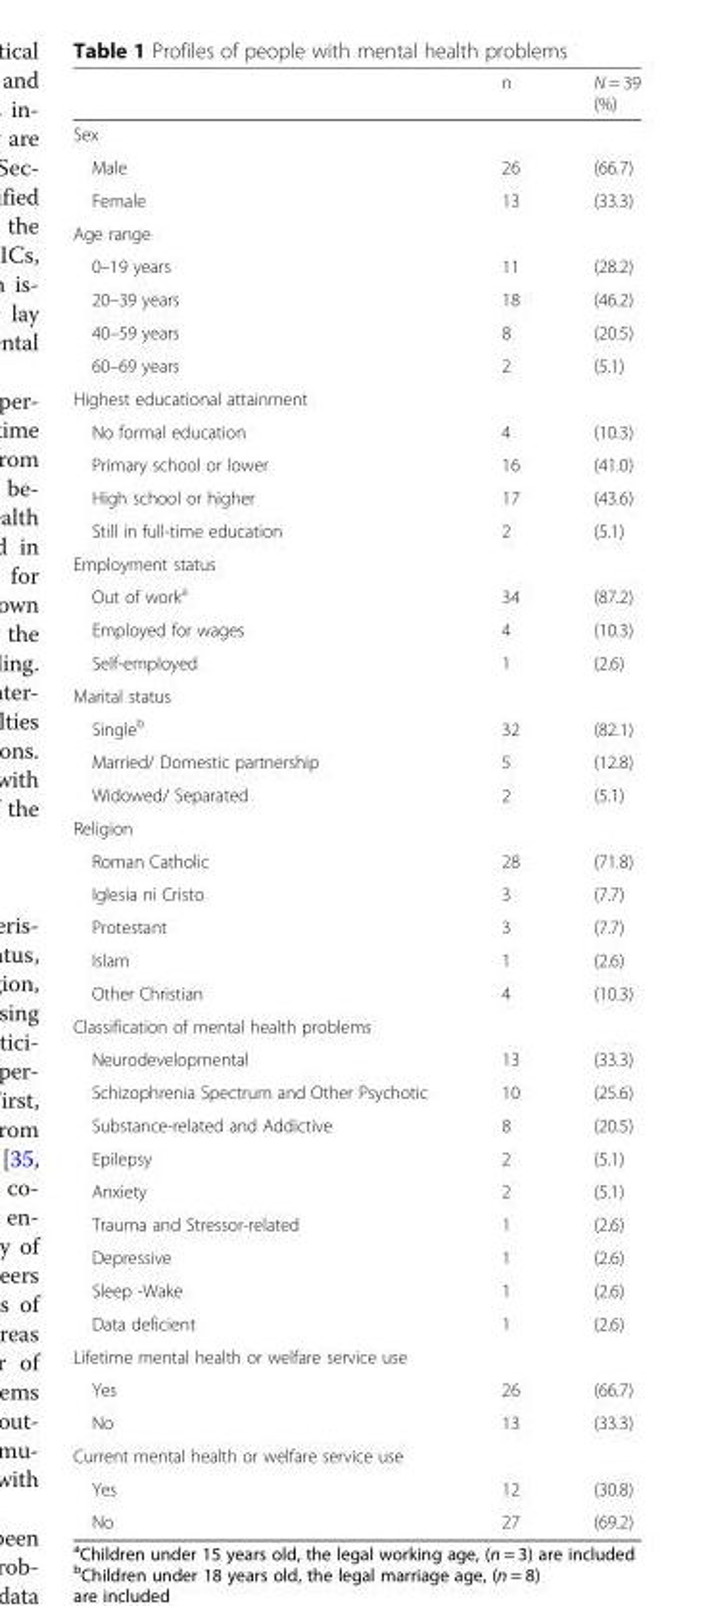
<table><thead><tr><td></td><td>n</td><td>N = 39 (%)</td></tr></thead><tbody><tr><td colspan="3">Sex</td></tr><tr><td>Male</td><td>26</td><td>(66.7)</td></tr><tr><td>Female</td><td>13</td><td>(33.3)</td></tr><tr><td colspan="3">Age range</td></tr><tr><td>0–19 years</td><td>11</td><td>(28.2)</td></tr><tr><td>20–39 years</td><td>18</td><td>(46.2)</td></tr><tr><td>40–59 years</td><td>8</td><td>(20.5)</td></tr><tr><td>60–69 years</td><td>2</td><td>(5.1)</td></tr><tr><td colspan="3">Highest educational attainment</td></tr><tr><td>No formal education</td><td>4</td><td>(10.3)</td></tr><tr><td>Primary school or lower</td><td>16</td><td>(41.0)</td></tr><tr><td>High school or higher</td><td>17</td><td>(43.6)</td></tr><tr><td>Still in full-time education</td><td>2</td><td>(5.1)</td></tr><tr><td colspan="3">Employment status</td></tr><tr><td>Out of work<sup>a</sup></td><td>34</td><td>(87.2)</td></tr><tr><td>Employed for wages</td><td>4</td><td>(10.3)</td></tr><tr><td>Self-employed</td><td>1</td><td>(2.6)</td></tr><tr><td colspan="3">Marital status</td></tr><tr><td>Single<sup>b</sup></td><td>32</td><td>(82.1)</td></tr><tr><td>Married/ Domestic partnership</td><td>5</td><td>(12.8)</td></tr><tr><td>Widowed/ Separated</td><td>2</td><td>(5.1)</td></tr><tr><td colspan="3">Religion</td></tr><tr><td>Roman Catholic</td><td>28</td><td>(71.8)</td></tr><tr><td>Iglesia ni Cristo</td><td>3</td><td>(7.7)</td></tr><tr><td>Protestant</td><td>3</td><td>(7.7)</td></tr><tr><td>Islam</td><td>1</td><td>(2.6)</td></tr><tr><td>Other Christian</td><td>4</td><td>(10.3)</td></tr><tr><td colspan="3">Classification of mental health problems</td></tr><tr><td>Neurodevelopmental</td><td>13</td><td>(33.3)</td></tr><tr><td>Schizophrenia Spectrum and Other Psychotic</td><td>10</td><td>(25.6)</td></tr><tr><td>Substance-related and Addictive</td><td>8</td><td>(20.5)</td></tr><tr><td>Epilepsy</td><td>2</td><td>(5.1)</td></tr><tr><td>Anxiety</td><td>2</td><td>(5.1)</td></tr><tr><td>Trauma and Stressor-related</td><td>1</td><td>(2.6)</td></tr><tr><td>Depressive</td><td>1</td><td>(2.6)</td></tr><tr><td>Sleep -Wake</td><td>1</td><td>(2.6)</td></tr><tr><td>Data deficient</td><td>1</td><td>(2.6)</td></tr><tr><td colspan="3">Lifetime mental health or welfare service use</td></tr><tr><td>Yes</td><td>26</td><td>(66.7)</td></tr><tr><td>No</td><td>13</td><td>(33.3)</td></tr><tr><td colspan="3">Current mental health or welfare service use</td></tr><tr><td>Yes</td><td>12</td><td>(30.8)</td></tr><tr><td>No</td><td>27</td><td>(69.2)</td></tr></tbody></table>